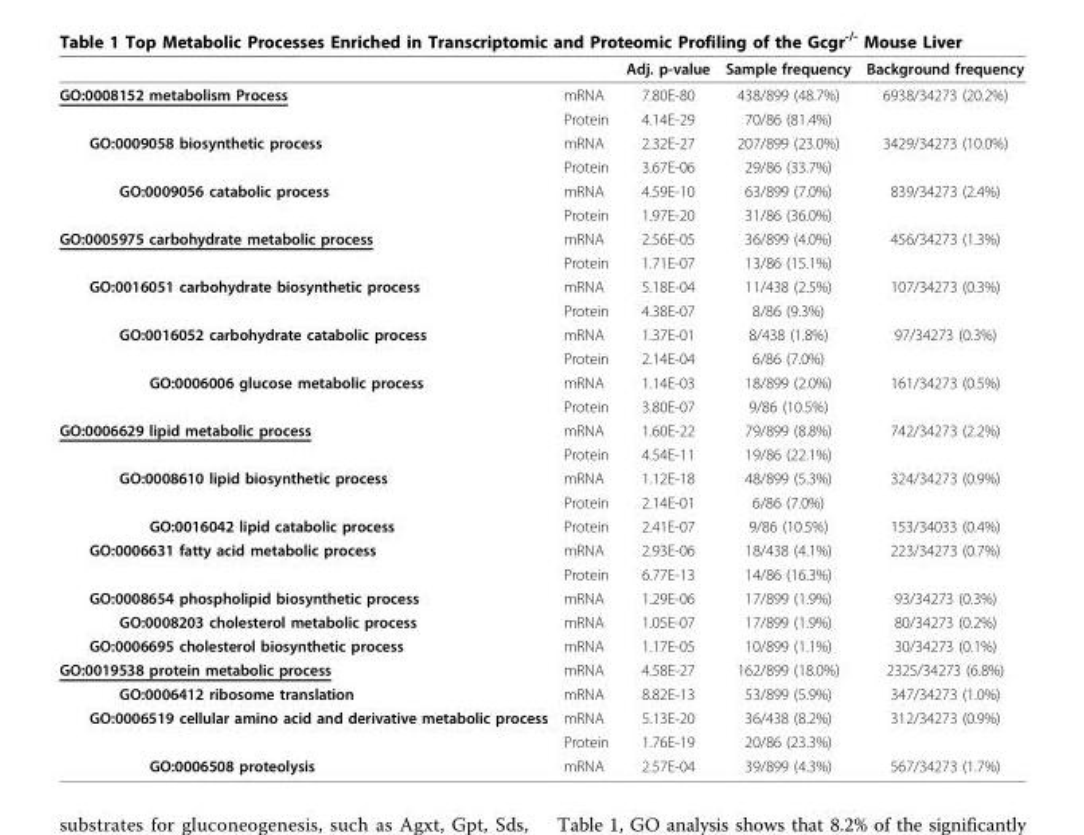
<table><thead><tr><td></td><td></td><td>Adj. p-value</td><td>Sample frequency</td><td>Background frequency</td></tr></thead><tbody><tr><td rowspan="2">GO:0008152 metabolism Process</td><td>mRNA</td><td>7.80E-80</td><td>438/899 (48.7%)</td><td>6938/34273 (20.2%)</td></tr><tr><td>Protein</td><td>4.14E-29</td><td>70/86 (81.4%)</td><td></td></tr><tr><td rowspan="2">GO:0009058 biosynthetic process</td><td>mRNA</td><td>2.32E-27</td><td>207/899 (23.0%)</td><td>3429/34273 (10.0%)</td></tr><tr><td>Protein</td><td>3.67E-06</td><td>29/86 (33.7%)</td><td></td></tr><tr><td rowspan="2">GO:0009056 catabolic process</td><td>mRNA</td><td>4.59E-10</td><td>63/899 (7.0%)</td><td>839/34273 (2.4%)</td></tr><tr><td>Protein</td><td>1.97E-20</td><td>31/86 (36.0%)</td><td></td></tr><tr><td rowspan="2">GO:0005975 carbohydrate metabolic process</td><td>mRNA</td><td>2.56E-05</td><td>36/899 (4.0%)</td><td>456/34273 (1.3%)</td></tr><tr><td>Protein</td><td>1.71E-07</td><td>13/86 (15.1%)</td><td></td></tr><tr><td rowspan="2">GO:0016051 carbohydrate biosynthetic process</td><td>mRNA</td><td>5.18E-04</td><td>11/438 (2.5%)</td><td>107/34273 (0.3%)</td></tr><tr><td>Protein</td><td>4.38E-07</td><td>8/86 (9.3%)</td><td></td></tr><tr><td rowspan="2">GO:0016052 carbohydrate catabolic process</td><td>mRNA</td><td>1.37E-01</td><td>8/438 (1.8%)</td><td>97/34273 (0.3%)</td></tr><tr><td>Protein</td><td>2.14E-04</td><td>6/86 (7.0%)</td><td></td></tr><tr><td rowspan="2">GO:0006006 glucose metabolic process</td><td>mRNA</td><td>1.14E-03</td><td>18/899 (2.0%)</td><td>161/34273 (0.5%)</td></tr><tr><td>Protein</td><td>3.80E-07</td><td>9/86 (10.5%)</td><td></td></tr><tr><td rowspan="2">GO:0006629 lipid metabolic process</td><td>mRNA</td><td>1.60E-22</td><td>79/899 (8.8%)</td><td>742/34273 (2.2%)</td></tr><tr><td>Protein</td><td>4.54E-11</td><td>19/86 (22.1%)</td><td></td></tr><tr><td rowspan="2">GO:0008610 lipid biosynthetic process</td><td>mRNA</td><td>1.12E-18</td><td>48/899 (5.3%)</td><td>324/34273 (0.9%)</td></tr><tr><td>Protein</td><td>2.14E-01</td><td>6/86 (7.0%)</td><td></td></tr><tr><td>GO:0016042 lipid catabolic process</td><td>Protein</td><td>2.41E-07</td><td>9/86 (10.5%)</td><td>153/34033 (0.4%)</td></tr><tr><td rowspan="2">GO:0006631 fatty acid metabolic process</td><td>mRNA</td><td>2.93E-06</td><td>18/438 (4.1%)</td><td>223/34273 (0.7%)</td></tr><tr><td>Protein</td><td>6.77E-13</td><td>14/86 (16.3%)</td><td></td></tr><tr><td>GO:0008654 phospholipid biosynthetic process</td><td>mRNA</td><td>1.29E-06</td><td>17/899 (1.9%)</td><td>93/34273 (0.3%)</td></tr><tr><td>GO:0008203 cholesterol metabolic process</td><td>mRNA</td><td>1.05E-07</td><td>17/899 (1.9%)</td><td>80/34273 (0.2%)</td></tr><tr><td>GO:0006695 cholesterol biosynthetic process</td><td>mRNA</td><td>1.17E-05</td><td>10/899 (1.1%)</td><td>30/34273 (0.1%)</td></tr><tr><td>GO:0019538 protein metabolic process</td><td>mRNA</td><td>4.58E-27</td><td>162/899 (18.0%)</td><td>2325/34273 (6.8%)</td></tr><tr><td>GO:0006412 ribosome translation</td><td>mRNA</td><td>8.82E-13</td><td>53/899 (5.9%)</td><td>347/34273 (1.0%)</td></tr><tr><td rowspan="2">GO:0006519 cellular amino acid and derivative metabolic process</td><td>mRNA</td><td>5.13E-20</td><td>36/438 (8.2%)</td><td>312/34273 (0.9%)</td></tr><tr><td>Protein</td><td>1.76E-19</td><td>20/86 (23.3%)</td><td></td></tr><tr><td>GO:0006508 proteolysis</td><td>mRNA</td><td>2.57E-04</td><td>39/899 (4.3%)</td><td>567/34273 (1.7%)</td></tr></tbody></table>